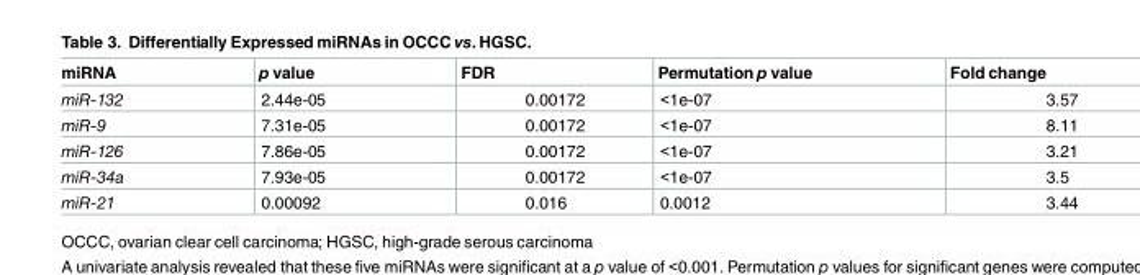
<table><thead><tr><td>miRNA</td><td>p value</td><td>FDR</td><td>Permutation p value</td><td>Fold change</td></tr></thead><tbody><tr><td>miR-132</td><td>2.44e-05</td><td>0.00172</td><td>&lt;1e-07</td><td>3.57</td></tr><tr><td>miR-9</td><td>7.31e-05</td><td>0.00172</td><td>&lt;1e-07</td><td>8.11</td></tr><tr><td>miR-126</td><td>7.86e-05</td><td>0.00172</td><td>&lt;1e-07</td><td>3.21</td></tr><tr><td>miR-34a</td><td>7.93e-05</td><td>0.00172</td><td>&lt;1e-07</td><td>3.5</td></tr><tr><td>miR-21</td><td>0.00092</td><td>0.016</td><td>0.0012</td><td>3.44</td></tr></tbody></table>